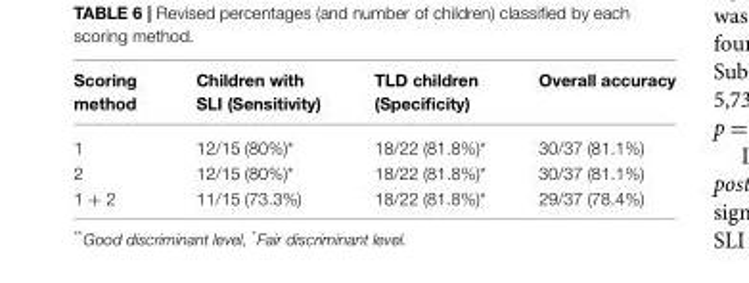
<table><thead><tr><td>Scoring method</td><td>Children with SLI (Sensitivity)</td><td>TLD children (Specificity)</td><td>Overall accuracy</td></tr></thead><tbody><tr><td>1</td><td>12/15 (80%)*</td><td>18/22 (81.8%)*</td><td>30/37 (81.1%)</td></tr><tr><td>2</td><td>12/15 (80%)*</td><td>18/22 (81.8%)*</td><td>30/37 (81.1%)</td></tr><tr><td>1 + 2</td><td>11/15 (73.3%)</td><td>18/22 (81.8%)*</td><td>29/37 (78.4%)</td></tr></tbody></table>